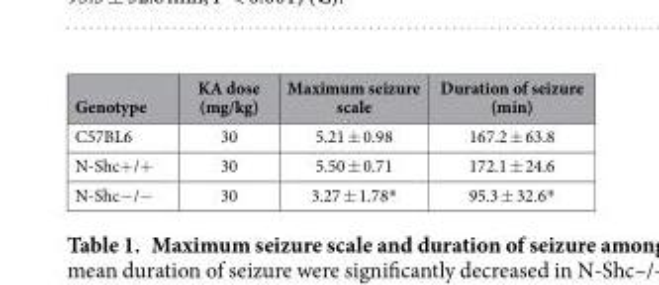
<table><thead><tr><td>Genotype</td><td>KA dose (mg/kg)</td><td>Maximum seizure scale</td><td>Duration of seizure (min)</td></tr></thead><tbody><tr><td>C57BL6</td><td>30</td><td>5.21 ± 0.98</td><td>167.2 ± 63.8</td></tr><tr><td>N-Shc+ /+</td><td>30</td><td>5.50 ± 0.71</td><td>172.1 ± 24.6</td></tr><tr><td>N-Shc− /−</td><td>30</td><td>3.27 ± 1.78*</td><td>95.3 ± 32.6*</td></tr></tbody></table>